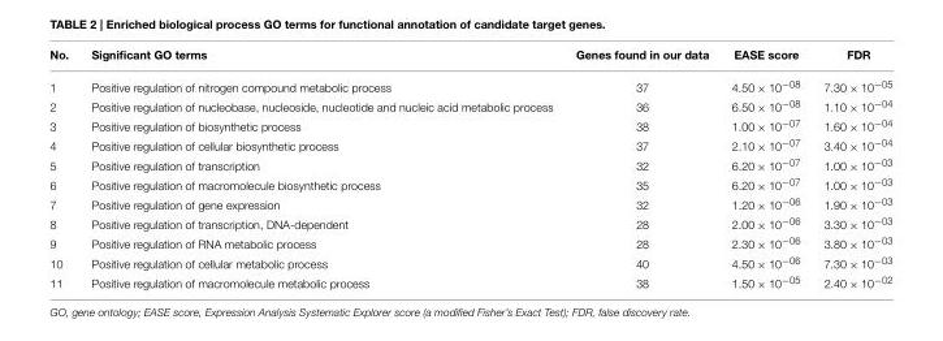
<table><thead><tr><td>No.</td><td>Significant GO terms</td><td>Genes found in our data</td><td>EASE score</td><td>FDR</td></tr></thead><tbody><tr><td>1</td><td>Positive regulation of nitrogen compound metabolic process</td><td>37</td><td>4.50 × 10<sup>−08</sup></td><td>7.30 × 10<sup>−05</sup></td></tr><tr><td>2</td><td>Positive regulation of nucleobase, nucleoside, nucleotide and nucleic acid metabolic process</td><td>36</td><td>6.50 × 10<sup>−08</sup></td><td>1.10 × 10<sup>−04</sup></td></tr><tr><td>3</td><td>Positive regulation of biosynthetic process</td><td>38</td><td>1.00 × 10<sup>−07</sup></td><td>1.60 × 10<sup>−04</sup></td></tr><tr><td>4</td><td>Positive regulation of cellular biosynthetic process</td><td>37</td><td>2.10 × 10<sup>−07</sup></td><td>3.40 × 10<sup>−04</sup></td></tr><tr><td>5</td><td>Positive regulation of transcription</td><td>32</td><td>6.20 × 10<sup>−07</sup></td><td>1.00 × 10<sup>−03</sup></td></tr><tr><td>6</td><td>Positive regulation of macromolecule biosynthetic process</td><td>35</td><td>6.20 × 10<sup>−07</sup></td><td>1.00 × 10<sup>−03</sup></td></tr><tr><td>7</td><td>Positive regulation of gene expression</td><td>32</td><td>1.20 × 10<sup>−06</sup></td><td>1.90 × 10<sup>−03</sup></td></tr><tr><td>8</td><td>Positive regulation of transcription, DNA-dependent</td><td>28</td><td>2.00 × 10<sup>−06</sup></td><td>3.30 × 10<sup>−03</sup></td></tr><tr><td>9</td><td>Positive regulation of RNA metabolic process</td><td>28</td><td>2.30 × 10<sup>−06</sup></td><td>3.80 × 10<sup>−03</sup></td></tr><tr><td>10</td><td>Positive regulation of cellular metabolic process</td><td>40</td><td>4.50 × 10<sup>−06</sup></td><td>7.30 × 10<sup>−03</sup></td></tr><tr><td>11</td><td>Positive regulation of macromolecule metabolic process</td><td>38</td><td>1.50 × 10<sup>−05</sup></td><td>2.40 × 10<sup>−02</sup></td></tr></tbody></table>